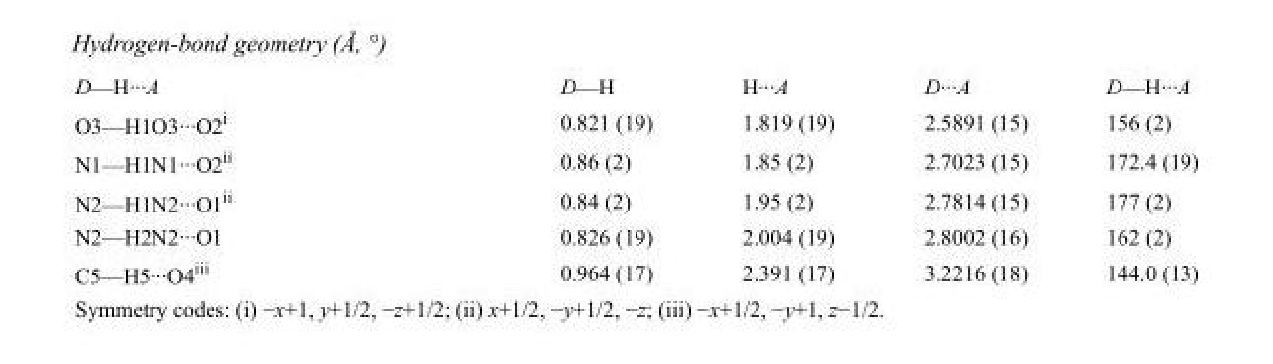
<table><tbody><tr><td>D—H···A</td><td>D—H</td><td>H···A</td><td>D···A</td><td>D—H···A</td></tr><tr><td>O3—H1O3···O2<sup>i</sup></td><td>0.821 (19)</td><td>1.819 (19)</td><td>2.5891 (15)</td><td>156 (2)</td></tr><tr><td>N1—H1N1···O2<sup>ii</sup></td><td>0.86 (2)</td><td>1.85 (2)</td><td>2.7023 (15)</td><td>172.4 (19)</td></tr><tr><td>N2—H1N2···O1<sup>ii</sup></td><td>0.84 (2)</td><td>1.95 (2)</td><td>2.7814 (15)</td><td>177 (2)</td></tr><tr><td>N2—H2N2···O1</td><td>0.826 (19)</td><td>2.004 (19)</td><td>2.8002 (16)</td><td>162 (2)</td></tr><tr><td>C5—H5···O4<sup>iii</sup></td><td>0.964 (17)</td><td>2.391 (17)</td><td>3.2216 (18)</td><td>144.0 (13)</td></tr></tbody></table>